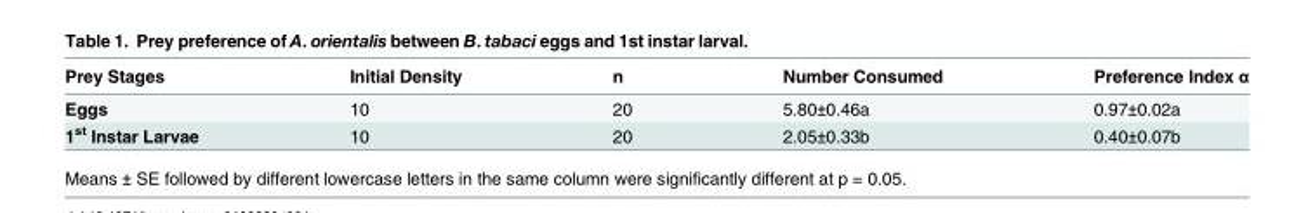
<table><thead><tr><td>Prey Stages</td><td>Initial Density</td><td>n</td><td>Number Consumed</td><td>Preference Index α</td></tr></thead><tbody><tr><td>Eggs</td><td>10</td><td>20</td><td>5.80±0.46a</td><td>0.97±0.02a</td></tr><tr><td>1<sup>st</sup> Instar Larvae</td><td>10</td><td>20</td><td>2.05±0.33b</td><td>0.40±0.07b</td></tr></tbody></table>